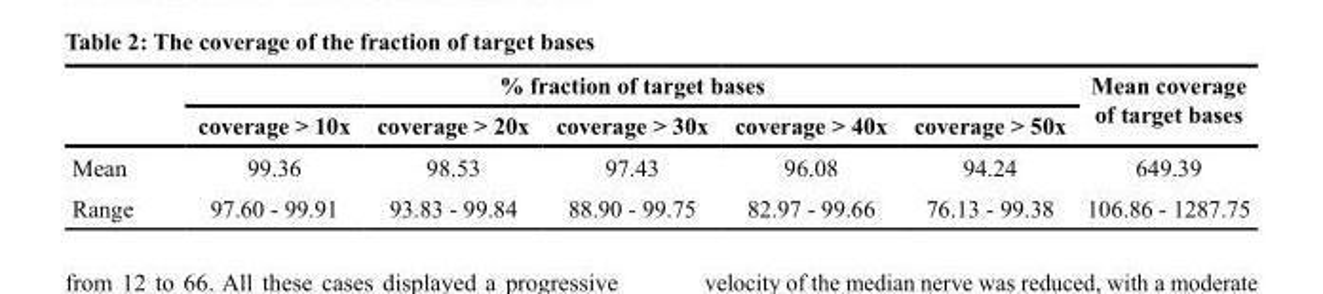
<table><thead><tr><td rowspan="2"></td><td colspan="5">% fraction of target bases</td><td rowspan="2">Mean coverage of target bases</td></tr><tr><td>coverage &gt; 10x</td><td>coverage &gt; 20x</td><td>coverage &gt; 30x</td><td>coverage &gt; 40x</td><td>coverage &gt; 50x</td></tr></thead><tbody><tr><td>Mean</td><td>99.36</td><td>98.53</td><td>97.43</td><td>96.08</td><td>94.24</td><td>649.39</td></tr><tr><td>Range</td><td>97.60 - 99.91</td><td>93.83 - 99.84</td><td>88.90 - 99.75</td><td>82.97 - 99.66</td><td>76.13 - 99.38</td><td>106.86 - 1287.75</td></tr></tbody></table>